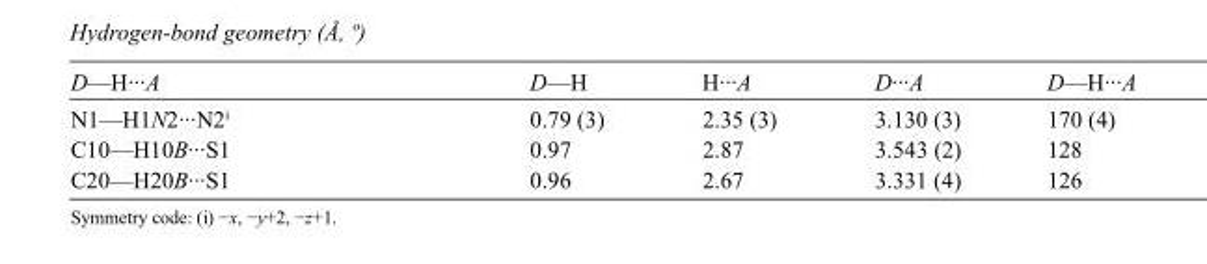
<table><tbody><tr><td>D—H···A</td><td>D—H</td><td>H···A</td><td>D···A</td><td>D—H···A</td></tr><tr><td>N1—H1N2···N2<sup>i</sup></td><td>0.79 (3)</td><td>2.35 (3)</td><td>3.130 (3)</td><td>170 (4)</td></tr><tr><td>C10—H10B···S1</td><td>0.97</td><td>2.87</td><td>3.543 (2)</td><td>128</td></tr><tr><td>C20—H20B···S1</td><td>0.96</td><td>2.67</td><td>3.331 (4)</td><td>126</td></tr></tbody></table>